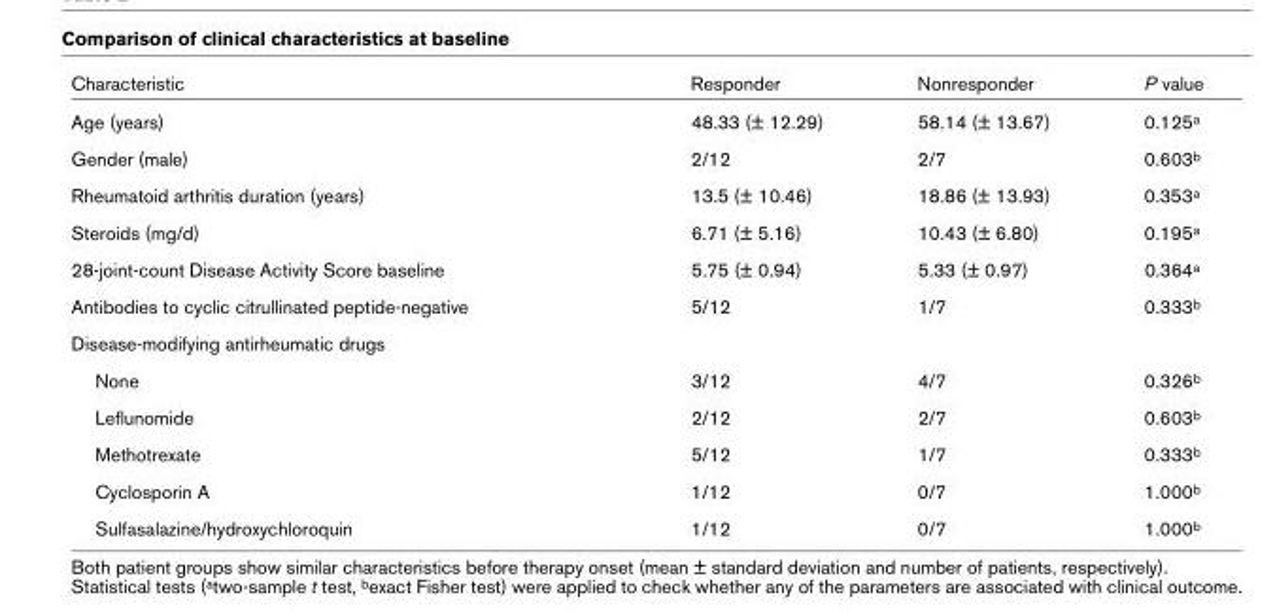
<table><thead><tr><td>Characteristic</td><td>Responder</td><td>Nonresponder</td><td>P value</td></tr></thead><tbody><tr><td>Age (years)</td><td>48.33 (± 12.29)</td><td>58.14 (± 13.67)</td><td>0.125<sup>a</sup></td></tr><tr><td>Gender (male)</td><td>2/12</td><td>2/7</td><td>0.603<sup>b</sup></td></tr><tr><td>Rheumatoid arthritis duration (years)</td><td>13.5 (± 10.46)</td><td>18.86 (± 13.93)</td><td>0.353<sup>a</sup></td></tr><tr><td>Steroids (mg/d)</td><td>6.71 (± 5.16)</td><td>10.43 (± 6.80)</td><td>0.195<sup>a</sup></td></tr><tr><td>28-joint-count Disease Activity Score baseline</td><td>5.75 (± 0.94)</td><td>5.33 (± 0.97)</td><td>0.364<sup>a</sup></td></tr><tr><td>Antibodies to cyclic citrullinated peptide-negative</td><td>5/12</td><td>1/7</td><td>0.333<sup>b</sup></td></tr><tr><td colspan="4">Disease-modifying antirheumatic drugs</td></tr><tr><td>None</td><td>3/12</td><td>4/7</td><td>0.326<sup>b</sup></td></tr><tr><td>Leflunomide</td><td>2/12</td><td>2/7</td><td>0.603<sup>b</sup></td></tr><tr><td>Methotrexate</td><td>5/12</td><td>1/7</td><td>0.333<sup>b</sup></td></tr><tr><td>Cyclosporin A</td><td>1/12</td><td>0/7</td><td>1.000<sup>b</sup></td></tr><tr><td>Sulfasalazine/hydroxychloroquin</td><td>1/12</td><td>0/7</td><td>1.000<sup>b</sup></td></tr></tbody></table>